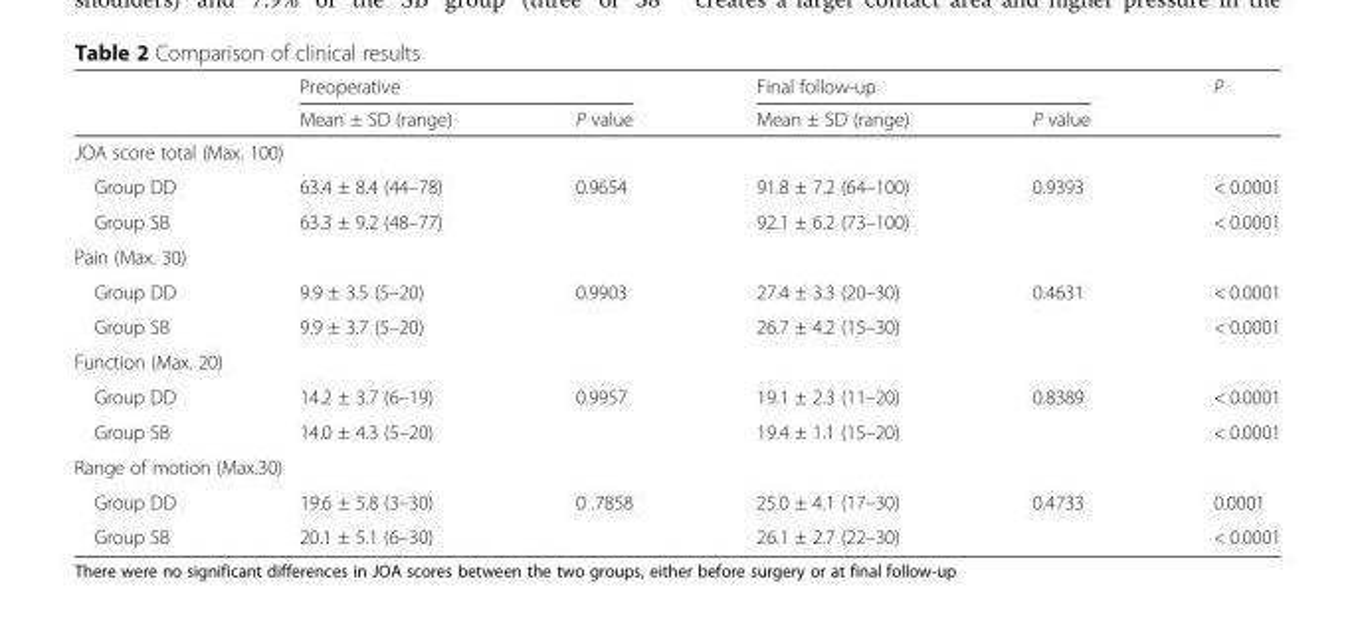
<table><thead><tr><td rowspan="2"></td><td colspan="2">Preoperative</td><td colspan="2">Final follow-up</td><td rowspan="2">P</td></tr><tr><td>Mean ± SD (range)</td><td>P value</td><td>Mean ± SD (range)</td><td>P value</td></tr></thead><tbody><tr><td colspan="6">JOA score total (Max. 100)</td></tr><tr><td>Group DD</td><td>63.4 ± 8.4 (44–78)</td><td>0.9654</td><td>91.8 ± 7.2 (64–100)</td><td>0.9393</td><td>&lt; 0.0001</td></tr><tr><td>Group SB</td><td>63.3 ± 9.2 (48–77)</td><td></td><td>92.1 ± 6.2 (73–100)</td><td></td><td>&lt; 0.0001</td></tr><tr><td colspan="6">Pain (Max. 30)</td></tr><tr><td>Group DD</td><td>9.9 ± 3.5 (5–20)</td><td>0.9903</td><td>27.4 ± 3.3 (20–30)</td><td>0.4631</td><td>&lt; 0.0001</td></tr><tr><td>Group SB</td><td>9.9 ± 3.7 (5–20)</td><td></td><td>26.7 ± 4.2 (15–30)</td><td></td><td>&lt; 0.0001</td></tr><tr><td colspan="6">Function (Max. 20)</td></tr><tr><td>Group DD</td><td>14.2 ± 3.7 (6–19)</td><td>0.9957</td><td>19.1 ± 2.3 (11–20)</td><td>0.8389</td><td>&lt; 0.0001</td></tr><tr><td>Group SB</td><td>14.0 ± 4.3 (5–20)</td><td></td><td>19.4 ± 1.1 (15–20)</td><td></td><td>&lt; 0.0001</td></tr><tr><td colspan="6">Range of motion (Max.30)</td></tr><tr><td>Group DD</td><td>19.6 ± 5.8 (3–30)</td><td>0 .7858</td><td>25.0 ± 4.1 (17–30)</td><td>0.4733</td><td>0.0001</td></tr><tr><td>Group SB</td><td>20.1 ± 5.1 (6–30)</td><td></td><td>26.1 ± 2.7 (22–30)</td><td></td><td>&lt; 0.0001</td></tr></tbody></table>